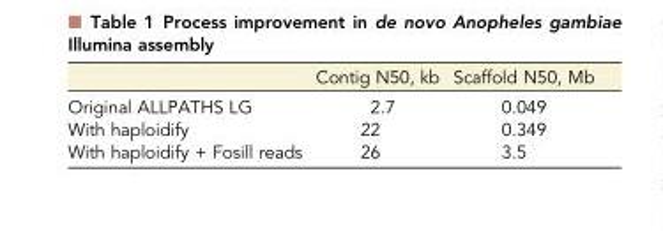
<table><thead><tr><td></td><td>Contig N50, kb</td><td>Scaffold N50, Mb</td></tr></thead><tbody><tr><td>Original ALLPATHS LG</td><td>2.7</td><td>0.049</td></tr><tr><td>With haploidify</td><td>22</td><td>0.349</td></tr><tr><td>With haploidify + Fosill reads</td><td>26</td><td>3.5</td></tr></tbody></table>